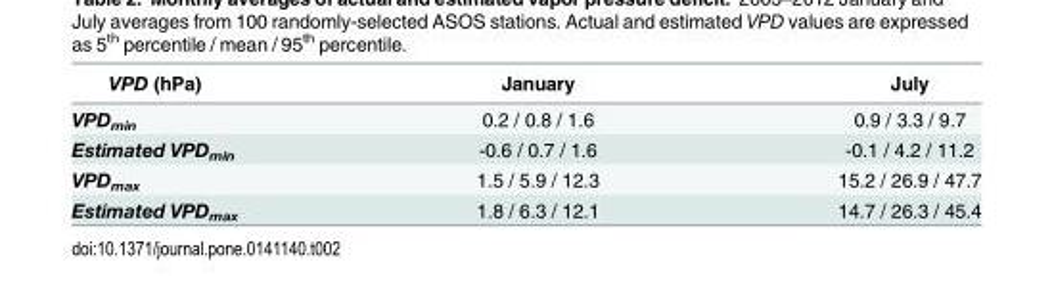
<table><thead><tr><td>VPD (hPa)</td><td>January</td><td>July</td></tr></thead><tbody><tr><td>VPD<sub>min</sub></td><td>0.2 / 0.8 / 1.6</td><td>0.9 / 3.3 / 9.7</td></tr><tr><td>Estimated VPD<sub>min</sub></td><td>-0.6 / 0.7 / 1.6</td><td>-0.1 / 4.2 / 11.2</td></tr><tr><td>VPD<sub>max</sub></td><td>1.5 / 5.9 / 12.3</td><td>15.2 / 26.9 / 47.7</td></tr><tr><td>Estimated VPD<sub>max</sub></td><td>1.8 / 6.3 / 12.1</td><td>14.7 / 26.3 / 45.4</td></tr></tbody></table>